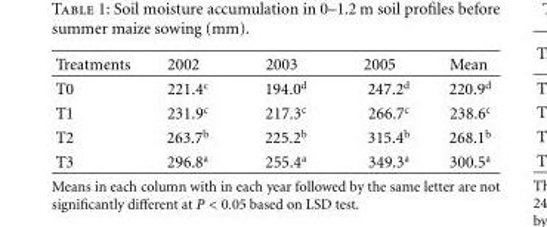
<table><thead><tr><td>Treatments</td><td>2002</td><td>2003</td><td>2005</td><td>Mean</td></tr></thead><tbody><tr><td>T0</td><td>221.4<sup>c</sup></td><td>194.0<sup>d</sup></td><td>247.2<sup>d</sup></td><td>220.9<sup>d</sup></td></tr><tr><td>T1</td><td>231.9<sup>c</sup></td><td>217.3<sup>c</sup></td><td>266.7<sup>c</sup></td><td>238.6<sup>c</sup></td></tr><tr><td>T2</td><td>263.7<sup>b</sup></td><td>225.2<sup>b</sup></td><td>315.4<sup>b</sup></td><td>268.1<sup>b</sup></td></tr><tr><td>T3</td><td>296.8<sup>a</sup></td><td>255.4<sup>a</sup></td><td>349.3<sup>a</sup></td><td>300.5<sup>a</sup></td></tr></tbody></table>